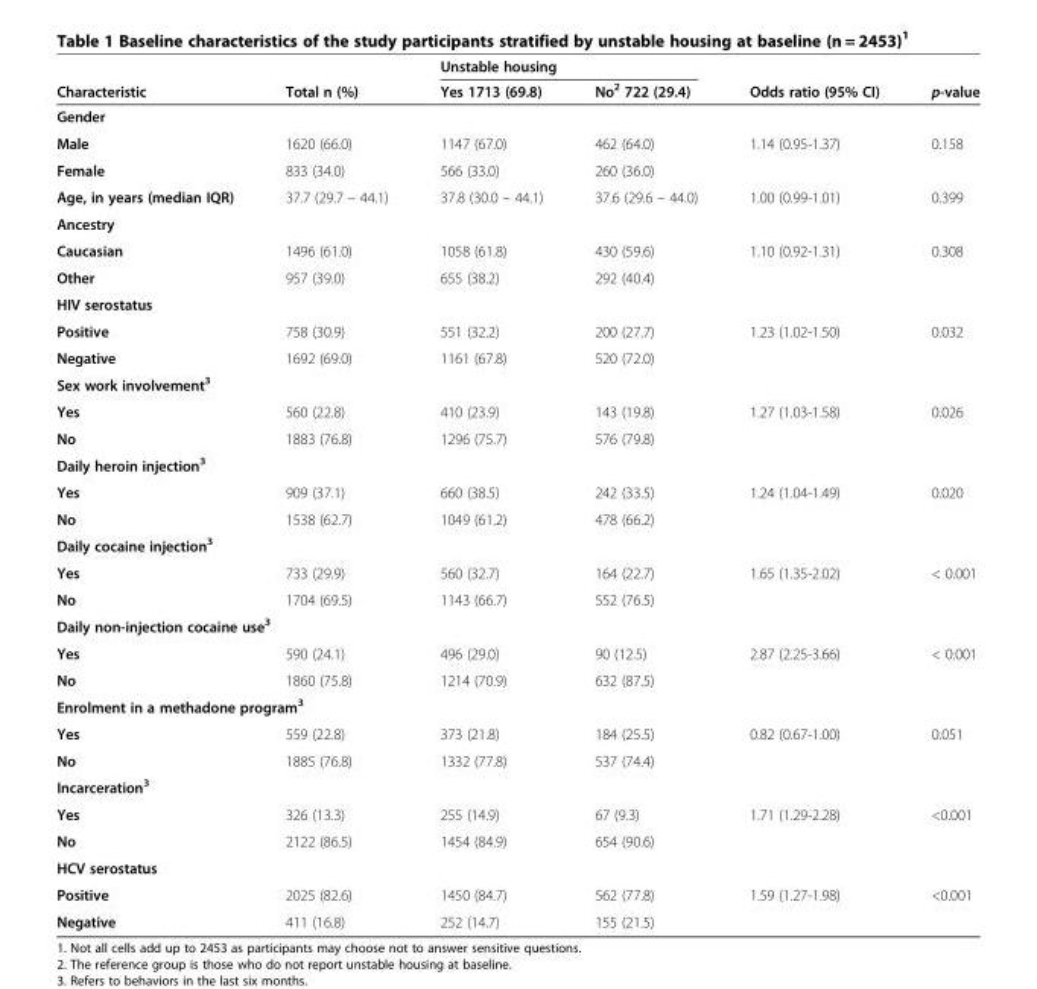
<table><thead><tr><td rowspan="2">Characteristic</td><td rowspan="2">Total n (%)</td><td colspan="2">Unstable housing</td><td rowspan="2">Odds ratio (95% CI)</td><td rowspan="2">p-value</td></tr><tr><td>Yes 1713 (69.8)</td><td>No<sup>2</sup> 722 (29.4)</td></tr></thead><tbody><tr><td colspan="6">Gender</td></tr><tr><td>Male</td><td>1620 (66.0)</td><td>1147 (67.0)</td><td>462 (64.0)</td><td rowspan="2">1.14 (0.95-1.37)</td><td rowspan="2">0.158</td></tr><tr><td>Female</td><td>833 (34.0)</td><td>566 (33.0)</td><td>260 (36.0)</td></tr><tr><td>Age, in years (median IQR)</td><td>37.7 (29.7 – 44.1)</td><td>37.8 (30.0 – 44.1)</td><td>37.6 (29.6 – 44.0)</td><td>1.00 (0.99-1.01)</td><td>0.399</td></tr><tr><td colspan="6">Ancestry</td></tr><tr><td>Caucasian</td><td>1496 (61.0)</td><td>1058 (61.8)</td><td>430 (59.6)</td><td rowspan="2">1.10 (0.92-1.31)</td><td rowspan="2">0.308</td></tr><tr><td>Other</td><td>957 (39.0)</td><td>655 (38.2)</td><td>292 (40.4)</td></tr><tr><td colspan="6">HIV serostatus</td></tr><tr><td>Positive</td><td>758 (30.9)</td><td>551 (32.2)</td><td>200 (27.7)</td><td rowspan="2">1.23 (1.02-1.50)</td><td rowspan="2">0.032</td></tr><tr><td>Negative</td><td>1692 (69.0)</td><td>1161 (67.8)</td><td>520 (72.0)</td></tr><tr><td colspan="6">Sex work involvement<sup>3</sup></td></tr><tr><td>Yes</td><td>560 (22.8)</td><td>410 (23.9)</td><td>143 (19.8)</td><td rowspan="2">1.27 (1.03-1.58)</td><td rowspan="2">0.026</td></tr><tr><td>No</td><td>1883 (76.8)</td><td>1296 (75.7)</td><td>576 (79.8)</td></tr><tr><td colspan="6">Daily heroin injection<sup>3</sup></td></tr><tr><td>Yes</td><td>909 (37.1)</td><td>660 (38.5)</td><td>242 (33.5)</td><td rowspan="2">1.24 (1.04-1.49)</td><td rowspan="2">0.020</td></tr><tr><td>No</td><td>1538 (62.7)</td><td>1049 (61.2)</td><td>478 (66.2)</td></tr><tr><td colspan="6">Daily cocaine injection<sup>3</sup></td></tr><tr><td>Yes</td><td>733 (29.9)</td><td>560 (32.7)</td><td>164 (22.7)</td><td rowspan="2">1.65 (1.35-2.02)</td><td rowspan="2">&lt; 0.001</td></tr><tr><td>No</td><td>1704 (69.5)</td><td>1143 (66.7)</td><td>552 (76.5)</td></tr><tr><td colspan="6">Daily non-injection cocaine use<sup>3</sup></td></tr><tr><td>Yes</td><td>590 (24.1)</td><td>496 (29.0)</td><td>90 (12.5)</td><td rowspan="2">2.87 (2.25-3.66)</td><td rowspan="2">&lt; 0.001</td></tr><tr><td>No</td><td>1860 (75.8)</td><td>1214 (70.9)</td><td>632 (87.5)</td></tr><tr><td colspan="6">Enrolment in a methadone program<sup>3</sup></td></tr><tr><td>Yes</td><td>559 (22.8)</td><td>373 (21.8)</td><td>184 (25.5)</td><td rowspan="2">0.82 (0.67-1.00)</td><td rowspan="2">0.051</td></tr><tr><td>No</td><td>1885 (76.8)</td><td>1332 (77.8)</td><td>537 (74.4)</td></tr><tr><td colspan="6">Incarceration<sup>3</sup></td></tr><tr><td>Yes</td><td>326 (13.3)</td><td>255 (14.9)</td><td>67 (9.3)</td><td rowspan="2">1.71 (1.29-2.28)</td><td rowspan="2">&lt;0.001</td></tr><tr><td>No</td><td>2122 (86.5)</td><td>1454 (84.9)</td><td>654 (90.6)</td></tr><tr><td colspan="6">HCV serostatus</td></tr><tr><td>Positive</td><td>2025 (82.6)</td><td>1450 (84.7)</td><td>562 (77.8)</td><td rowspan="2">1.59 (1.27-1.98)</td><td rowspan="2">&lt;0.001</td></tr><tr><td>Negative</td><td>411 (16.8)</td><td>252 (14.7)</td><td>155 (21.5)</td></tr></tbody></table>